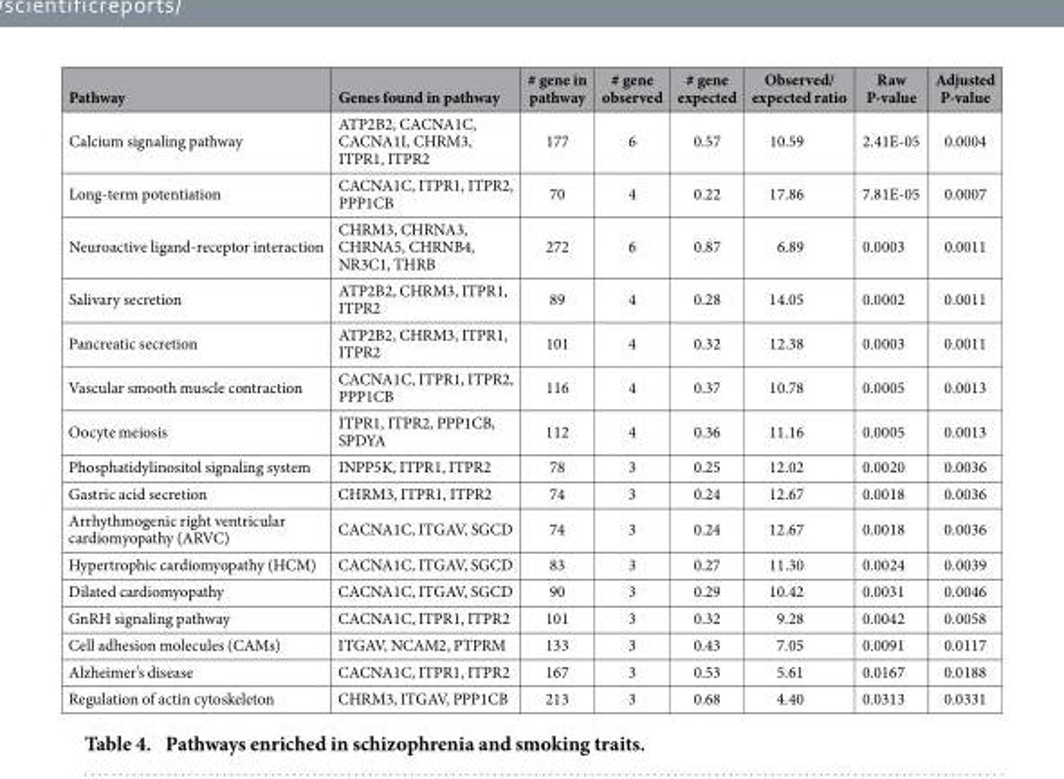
<table><thead><tr><td>Pathway</td><td>Genes found in pathway</td><td># gene in pathway</td><td># gene observed</td><td># gene expected</td><td>Observed/ expected ratio</td><td>Raw P-value</td><td>Adjusted P-value</td></tr></thead><tbody><tr><td>Calcium signaling pathway</td><td>ATP2B2, CACNA1C, CACNA1I, CHRM3, ITPR1, ITPR2</td><td>177</td><td>6</td><td>0.57</td><td>10.59</td><td>2.41E-05</td><td>0.0004</td></tr><tr><td>Long-term potentiation</td><td>CACNA1C, ITPR1, ITPR2, PPP1CB</td><td>70</td><td>4</td><td>0.22</td><td>17.86</td><td>7.81E-05</td><td>0.0007</td></tr><tr><td>Neuroactive ligand-receptor interaction</td><td>CHRM3, CHRNA3, CHRNA5, CHRNB4, NR3C1, THRB</td><td>272</td><td>6</td><td>0.87</td><td>6.89</td><td>0.0003</td><td>0.0011</td></tr><tr><td>Salivary secretion</td><td>ATP2B2, CHRM3, ITPR1, ITPR2</td><td>89</td><td>4</td><td>0.28</td><td>14.05</td><td>0.0002</td><td>0.0011</td></tr><tr><td>Pancreatic secretion</td><td>ATP2B2, CHRM3, ITPR1, ITPR2</td><td>101</td><td>4</td><td>0.32</td><td>12.38</td><td>0.0003</td><td>0.0011</td></tr><tr><td>Vascular smooth muscle contraction</td><td>CACNA1C, ITPR1, ITPR2, PPP1CB</td><td>116</td><td>4</td><td>0.37</td><td>10.78</td><td>0.0005</td><td>0.0013</td></tr><tr><td>Oocyte meiosis</td><td>ITPR1, ITPR2, PPP1CB, SPDYA</td><td>112</td><td>4</td><td>0.36</td><td>11.16</td><td>0.0005</td><td>0.0013</td></tr><tr><td>Phosphatidylinositol signaling system</td><td>INPP5K, ITPR1, ITPR2</td><td>78</td><td>3</td><td>0.25</td><td>12.02</td><td>0.0020</td><td>0.0036</td></tr><tr><td>Gastric acid secretion</td><td>CHRM3, ITPR1, ITPR2</td><td>74</td><td>3</td><td>0.24</td><td>12.67</td><td>0.0018</td><td>0.0036</td></tr><tr><td>Arrhythmogenic right ventricular cardiomyopathy (ARVC)</td><td>CACNA1C, ITGAV, SGCD</td><td>74</td><td>3</td><td>0.24</td><td>12.67</td><td>0.0018</td><td>0.0036</td></tr><tr><td>Hypertrophic cardiomyopathy (HCM)</td><td>CACNA1C, ITGAV, SGCD</td><td>83</td><td>3</td><td>0.27</td><td>11.30</td><td>0.0024</td><td>0.0039</td></tr><tr><td>Dilated cardiomyopathy</td><td>CACNA1C, ITGAV, SGCD</td><td>90</td><td>3</td><td>0.29</td><td>10.42</td><td>0.0031</td><td>0.0046</td></tr><tr><td>GnRH signaling pathway</td><td>CACNA1C, ITPR1, ITPR2</td><td>101</td><td>3</td><td>0.32</td><td>9.28</td><td>0.0042</td><td>0.0058</td></tr><tr><td>Cell adhesion molecules (CAMs)</td><td>ITGAV, NCAM2, PTPRM</td><td>133</td><td>3</td><td>0.43</td><td>7.05</td><td>0.0091</td><td>0.0117</td></tr><tr><td>Alzheimer’s disease</td><td>CACNA1C, ITPR1, ITPR2</td><td>167</td><td>3</td><td>0.53</td><td>5.61</td><td>0.0167</td><td>0.0188</td></tr><tr><td>Regulation of actin cytoskeleton</td><td>CHRM3, ITGAV, PPP1CB</td><td>213</td><td>3</td><td>0.68</td><td>4.40</td><td>0.0313</td><td>0.0331</td></tr></tbody></table>